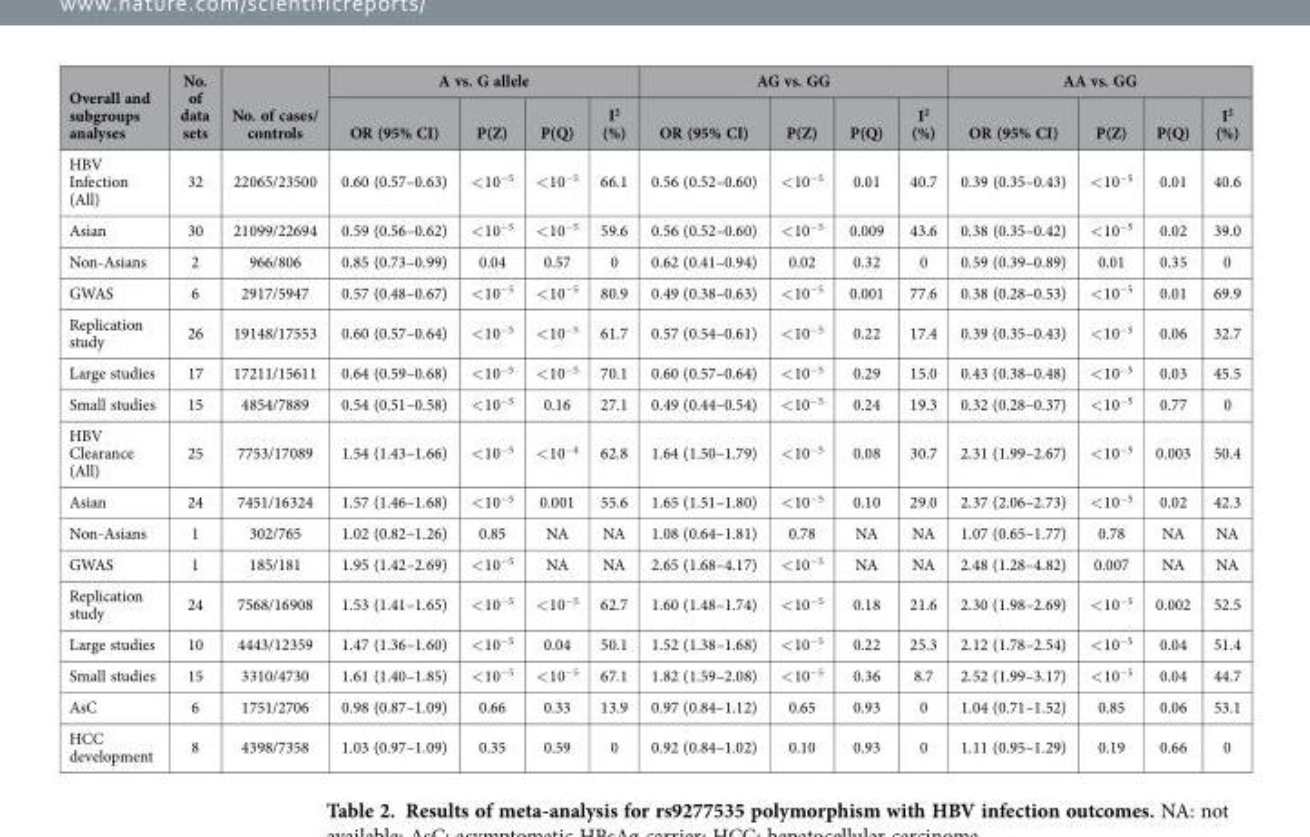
<table><thead><tr><td rowspan="2">Overall and subgroups analyses</td><td rowspan="2">No. of data sets</td><td rowspan="2">No. of cases/ controls</td><td colspan="4">A vs. G allele</td><td colspan="4">AG vs. GG</td><td colspan="4">AA vs. GG</td></tr><tr><td>OR (95% CI)</td><td>P(Z)</td><td>P(Q)</td><td>I<sup>2</sup> (%)</td><td>OR (95% CI)</td><td>P(Z)</td><td>P(Q)</td><td>I<sup>2</sup> (%)</td><td>OR (95% CI)</td><td>P(Z)</td><td>P(Q)</td><td>I<sup>2</sup> (%)</td></tr></thead><tbody><tr><td>HBV Infection (All)</td><td>32</td><td>22065/23500</td><td>0.60 (0.57–0.63)</td><td>&lt; 10<sup>−5</sup></td><td>&lt; 10<sup>−5</sup></td><td>66.1</td><td>0.56 (0.52–0.60)</td><td>&lt; 10<sup>−5</sup></td><td>0.01</td><td>40.7</td><td>0.39 (0.35–0.43)</td><td>&lt; 10<sup>−5</sup></td><td>0.01</td><td>40.6</td></tr><tr><td>Asian</td><td>30</td><td>21099/22694</td><td>0.59 (0.56–0.62)</td><td>&lt; 10<sup>−5</sup></td><td>&lt; 10<sup>−5</sup></td><td>59.6</td><td>0.56 (0.52–0.60)</td><td>&lt; 10<sup>−5</sup></td><td>0.009</td><td>43.6</td><td>0.38 (0.35–0.42)</td><td>&lt; 10<sup>−5</sup></td><td>0.02</td><td>39.0</td></tr><tr><td>Non-Asians</td><td>2</td><td>966/806</td><td>0.85 (0.73–0.99)</td><td>0.04</td><td>0.57</td><td>0</td><td>0.62 (0.41–0.94)</td><td>0.02</td><td>0.32</td><td>0</td><td>0.59 (0.39–0.89)</td><td>0.01</td><td>0.35</td><td>0</td></tr><tr><td>GWAS</td><td>6</td><td>2917/5947</td><td>0.57 (0.48–0.67)</td><td>&lt; 10<sup>−5</sup></td><td>&lt; 10<sup>−5</sup></td><td>80.9</td><td>0.49 (0.38–0.63)</td><td>&lt; 10<sup>−5</sup></td><td>0.001</td><td>77.6</td><td>0.38 (0.28–0.53)</td><td>&lt; 10<sup>−5</sup></td><td>0.01</td><td>69.9</td></tr><tr><td>Replication study</td><td>26</td><td>19148/17553</td><td>0.60 (0.57–0.64)</td><td>&lt; 10<sup>−5</sup></td><td>&lt; 10<sup>−5</sup></td><td>61.7</td><td>0.57 (0.54–0.61)</td><td>&lt; 10<sup>−5</sup></td><td>0.22</td><td>17.4</td><td>0.39 (0.35–0.43)</td><td>&lt; 10<sup>−5</sup></td><td>0.06</td><td>32.7</td></tr><tr><td>Large studies</td><td>17</td><td>17211/15611</td><td>0.64 (0.59–0.68)</td><td>&lt; 10<sup>−5</sup></td><td>&lt; 10<sup>−5</sup></td><td>70.1</td><td>0.60 (0.57–0.64)</td><td>&lt; 10<sup>−5</sup></td><td>0.29</td><td>15.0</td><td>0.43 (0.38–0.48)</td><td>&lt; 10<sup>−5</sup></td><td>0.03</td><td>45.5</td></tr><tr><td>Small studies</td><td>15</td><td>4854/7889</td><td>0.54 (0.51–0.58)</td><td>&lt; 10<sup>−5</sup></td><td>0.16</td><td>27.1</td><td>0.49 (0.44–0.54)</td><td>&lt; 10<sup>−5</sup></td><td>0.24</td><td>19.3</td><td>0.32 (0.28–0.37)</td><td>&lt; 10<sup>−5</sup></td><td>0.77</td><td>0</td></tr><tr><td>HBV Clearance (All)</td><td>25</td><td>7753/17089</td><td>1.54 (1.43–1.66)</td><td>&lt; 10<sup>−5</sup></td><td>&lt; 10<sup>−4</sup></td><td>62.8</td><td>1.64 (1.50–1.79)</td><td>&lt; 10<sup>−5</sup></td><td>0.08</td><td>30.7</td><td>2.31 (1.99–2.67)</td><td>&lt; 10<sup>−5</sup></td><td>0.003</td><td>50.4</td></tr><tr><td>Asian</td><td>24</td><td>7451/16324</td><td>1.57 (1.46–1.68)</td><td>&lt; 10<sup>−5</sup></td><td>0.001</td><td>55.6</td><td>1.65 (1.51–1.80)</td><td>&lt; 10<sup>−5</sup></td><td>0.10</td><td>29.0</td><td>2.37 (2.06–2.73)</td><td>&lt; 10<sup>−5</sup></td><td>0.02</td><td>42.3</td></tr><tr><td>Non-Asians</td><td>1</td><td>302/765</td><td>1.02 (0.82–1.26)</td><td>0.85</td><td>NA</td><td>NA</td><td>1.08 (0.64–1.81)</td><td>0.78</td><td>NA</td><td>NA</td><td>1.07 (0.65–1.77)</td><td>0.78</td><td>NA</td><td>NA</td></tr><tr><td>GWAS</td><td>1</td><td>185/181</td><td>1.95 (1.42–2.69)</td><td>&lt; 10<sup>−5</sup></td><td>NA</td><td>NA</td><td>2.65 (1.68–4.17)</td><td>&lt; 10<sup>−5</sup></td><td>NA</td><td>NA</td><td>2.48 (1.28–4.82)</td><td>0.007</td><td>NA</td><td>NA</td></tr><tr><td>Replication study</td><td>24</td><td>7568/16908</td><td>1.53 (1.41–1.65)</td><td>&lt; 10<sup>−5</sup></td><td>&lt; 10<sup>−5</sup></td><td>62.7</td><td>1.60 (1.48–1.74)</td><td>&lt; 10<sup>−5</sup></td><td>0.18</td><td>21.6</td><td>2.30 (1.98–2.69)</td><td>&lt; 10<sup>−5</sup></td><td>0.002</td><td>52.5</td></tr><tr><td>Large studies</td><td>10</td><td>4443/12359</td><td>1.47 (1.36–1.60)</td><td>&lt; 10<sup>−5</sup></td><td>0.04</td><td>50.1</td><td>1.52 (1.38–1.68)</td><td>&lt; 10<sup>−5</sup></td><td>0.22</td><td>25.3</td><td>2.12 (1.78–2.54)</td><td>&lt; 10<sup>−5</sup></td><td>0.04</td><td>51.4</td></tr><tr><td>Small studies</td><td>15</td><td>3310/4730</td><td>1.61 (1.40–1.85)</td><td>&lt; 10<sup>−5</sup></td><td>&lt; 10<sup>−5</sup></td><td>67.1</td><td>1.82 (1.59–2.08)</td><td>&lt; 10<sup>−5</sup></td><td>0.36</td><td>8.7</td><td>2.52 (1.99–3.17)</td><td>&lt; 10<sup>−5</sup></td><td>0.04</td><td>44.7</td></tr><tr><td>AsC</td><td>6</td><td>1751/2706</td><td>0.98 (0.87–1.09)</td><td>0.66</td><td>0.33</td><td>13.9</td><td>0.97 (0.84–1.12)</td><td>0.65</td><td>0.93</td><td>0</td><td>1.04 (0.71–1.52)</td><td>0.85</td><td>0.06</td><td>53.1</td></tr><tr><td>HCC development</td><td>8</td><td>4398/7358</td><td>1.03 (0.97–1.09)</td><td>0.35</td><td>0.59</td><td>0</td><td>0.92 (0.84–1.02)</td><td>0.10</td><td>0.93</td><td>0</td><td>1.11 (0.95–1.29)</td><td>0.19</td><td>0.66</td><td>0</td></tr></tbody></table>